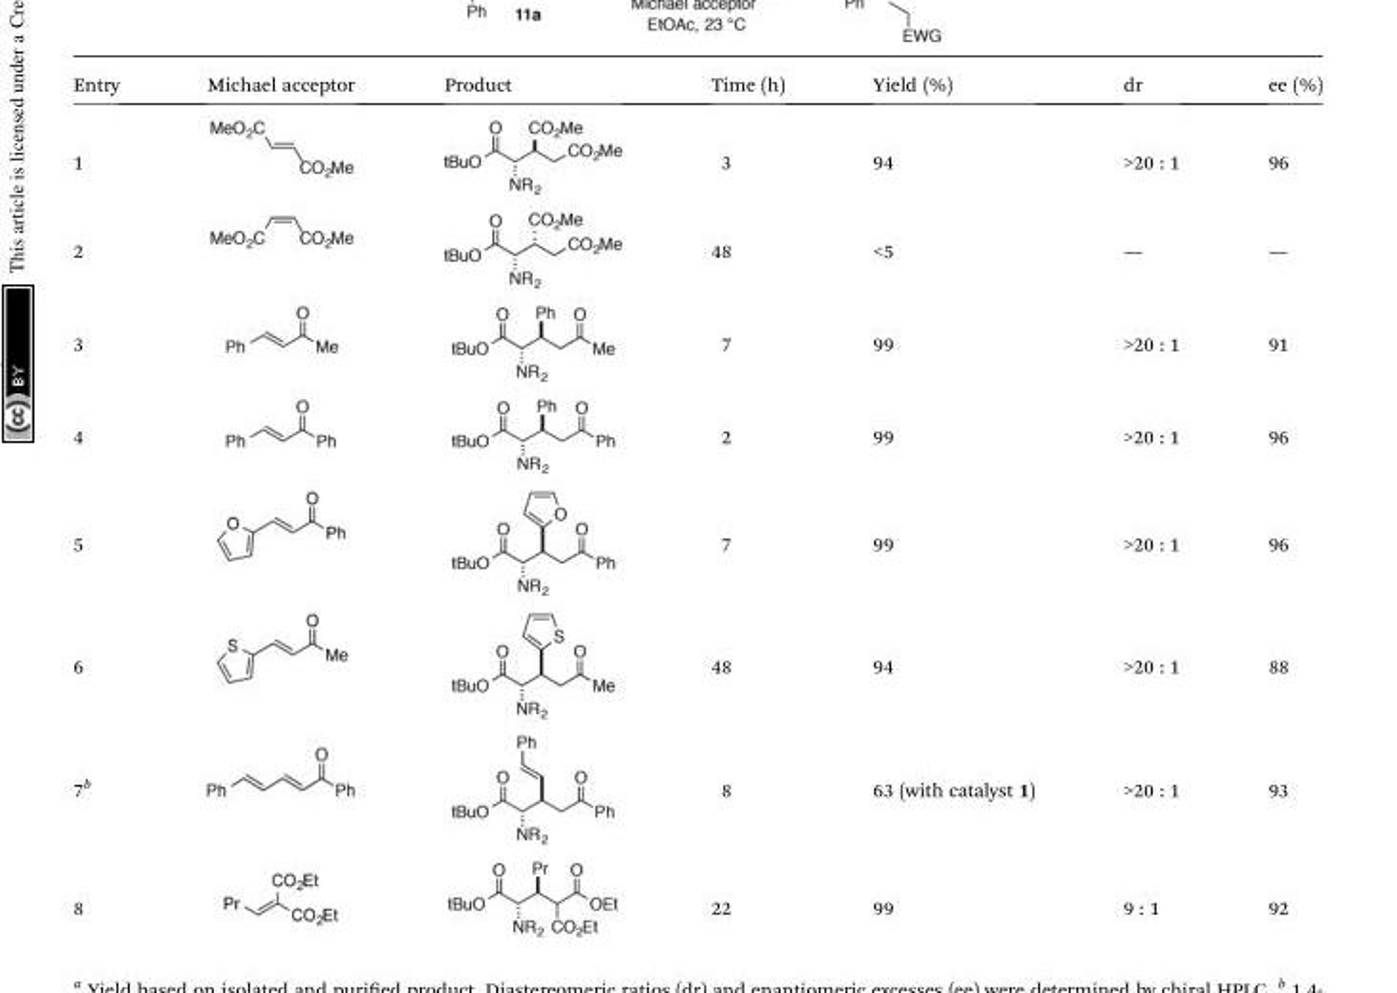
<table><thead><tr><td>Entry</td><td>Michael acceptor</td><td>Product</td><td>Time (h)</td><td>Yield (%)</td><td>dr</td><td>ee (%)</td></tr></thead><tbody><tr><td>1</td><td></td><td></td><td>3</td><td>94</td><td>&gt;20 : 1</td><td>96</td></tr><tr><td>2</td><td></td><td></td><td>48</td><td>&lt;5</td><td>—</td><td>—</td></tr><tr><td>3</td><td></td><td></td><td>7</td><td>99</td><td>&gt;20 : 1</td><td>91</td></tr><tr><td>4</td><td></td><td></td><td>2</td><td>99</td><td>&gt;20 : 1</td><td>96</td></tr><tr><td>5</td><td></td><td></td><td>7</td><td>99</td><td>&gt;20 : 1</td><td>96</td></tr><tr><td>6</td><td></td><td></td><td>48</td><td>94</td><td>&gt;20 : 1</td><td>88</td></tr><tr><td>7<sup>b</sup></td><td></td><td></td><td>8</td><td>63 (with catalyst 1)</td><td>&gt;20 : 1</td><td>93</td></tr><tr><td>8</td><td></td><td></td><td>22</td><td>99</td><td>9 : 1</td><td>92</td></tr></tbody></table>